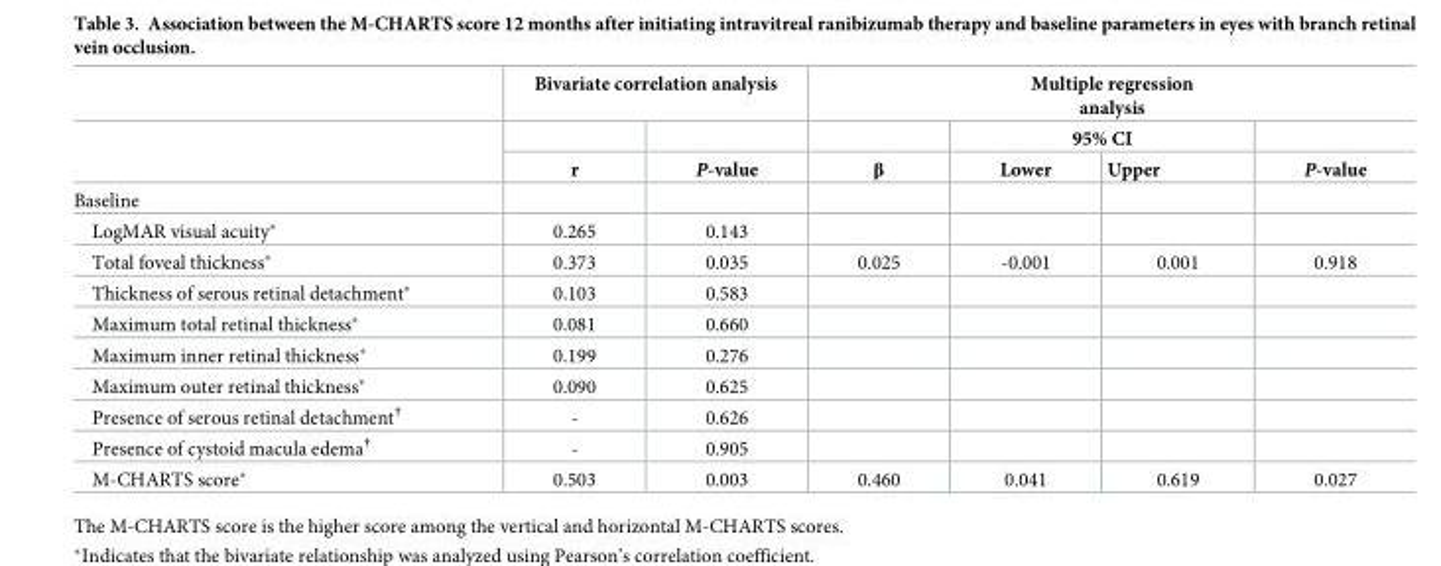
<table><thead><tr><td rowspan="3"></td><td colspan="2">Bivariate correlation analysis</td><td colspan="4">Multiple regression analysis</td></tr><tr><td rowspan="2">r</td><td rowspan="2">P-value</td><td rowspan="2">β</td><td colspan="2">95% CI</td><td rowspan="2">P-value</td></tr><tr><td>Lower</td><td>Upper</td></tr></thead><tbody><tr><td colspan="7">Baseline</td></tr><tr><td>LogMAR visual acuity*</td><td>0.265</td><td>0.143</td><td></td><td></td><td></td><td></td></tr><tr><td>Total foveal thickness*</td><td>0.373</td><td>0.035</td><td>0.025</td><td>-0.001</td><td>0.001</td><td>0.918</td></tr><tr><td>Thickness of serous retinal detachment*</td><td>0.103</td><td>0.583</td><td></td><td></td><td></td><td></td></tr><tr><td>Maximum total retinal thickness*</td><td>0.081</td><td>0.660</td><td></td><td></td><td></td><td></td></tr><tr><td>Maximum inner retinal thickness*</td><td>0.199</td><td>0.276</td><td></td><td></td><td></td><td></td></tr><tr><td>Maximum outer retinal thickness*</td><td>0.090</td><td>0.625</td><td></td><td></td><td></td><td></td></tr><tr><td>Presence of serous retinal detachment<sup>†</sup></td><td>-</td><td>0.626</td><td></td><td></td><td></td><td></td></tr><tr><td>Presence of cystoid macula edema<sup>†</sup></td><td>-</td><td>0.905</td><td></td><td></td><td></td><td></td></tr><tr><td>M-CHARTS score*</td><td>0.503</td><td>0.003</td><td>0.460</td><td>0.041</td><td>0.619</td><td>0.027</td></tr></tbody></table>